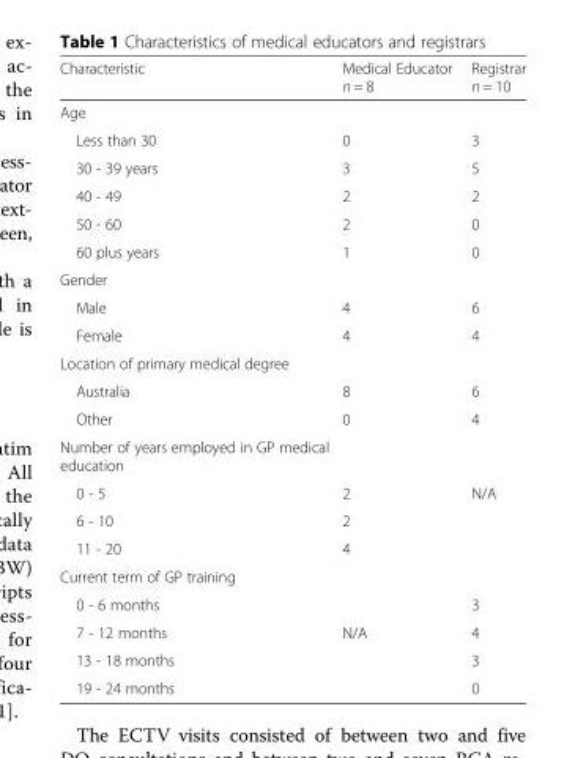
<table><thead><tr><td>Characteristic</td><td>Medical Educator n = 8</td><td>Registrar n = 10</td></tr></thead><tbody><tr><td colspan="3">Age</td></tr><tr><td>Less than 30</td><td>0</td><td>3</td></tr><tr><td>30 - 39 years</td><td>3</td><td>5</td></tr><tr><td>40 - 49</td><td>2</td><td>2</td></tr><tr><td>50 - 60</td><td>2</td><td>0</td></tr><tr><td>60 plus years</td><td>1</td><td>0</td></tr><tr><td colspan="3">Gender</td></tr><tr><td>Male</td><td>4</td><td>6</td></tr><tr><td>Female</td><td>4</td><td>4</td></tr><tr><td colspan="3">Location of primary medical degree</td></tr><tr><td>Australia</td><td>8</td><td>6</td></tr><tr><td>Other</td><td>0</td><td>4</td></tr><tr><td colspan="3">Number of years employed in GP medical education</td></tr><tr><td>0 - 5</td><td>2</td><td>N/A</td></tr><tr><td>6 - 10</td><td>2</td><td></td></tr><tr><td>11 - 20</td><td>4</td><td></td></tr><tr><td colspan="3">Current term of GP training</td></tr><tr><td>0 - 6 months</td><td></td><td>3</td></tr><tr><td>7 - 12 months</td><td>N/A</td><td>4</td></tr><tr><td>13 - 18 months</td><td></td><td>3</td></tr><tr><td>19 - 24 months</td><td></td><td>0</td></tr></tbody></table>